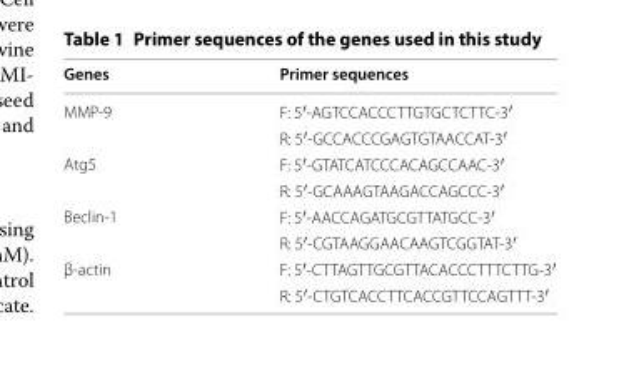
<table><thead><tr><td>Genes</td><td>Primer sequences</td></tr></thead><tbody><tr><td rowspan="2">MMP-9</td><td>F: 5′-AGT CCA CCC TTG TGC TCT TC-3′</td></tr><tr><td>R: 5′-GCC ACC CGA GTG TAA CCA T-3′</td></tr><tr><td rowspan="2">Atg5</td><td>F: 5′-GTA TCA TCC CAC AGC CAA C-3′</td></tr><tr><td>R: 5′-GCA AAG TAA GAC CAG CCC -3′</td></tr><tr><td rowspan="2">Beclin-1</td><td>F: 5′-AAC CAG ATG CGT TAT GCC -3′</td></tr><tr><td>R: 5′-CGT AAG GAA CAA GTC GGT AT-3′</td></tr><tr><td rowspan="2">β-actin</td><td>F: 5′-CTT AGT TGC GTT ACA CCC TTT CTT G-3′</td></tr><tr><td>R: 5′-CTG TCA CCT TCA CCG TTC CAG TTT -3′</td></tr></tbody></table>